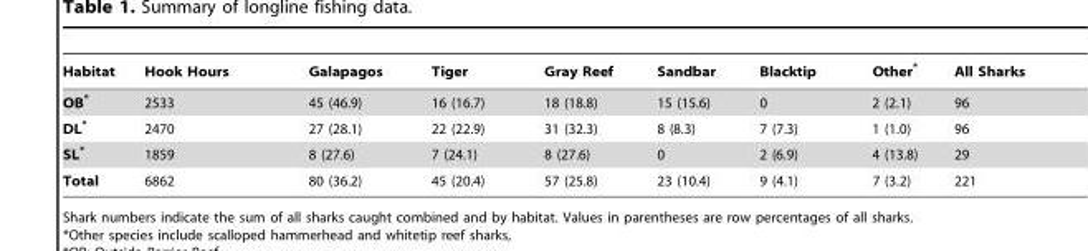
<table><thead><tr><td>Habitat</td><td>Hook Hours</td><td>Galapagos</td><td>Tiger</td><td>Gray Reef</td><td>Sandbar</td><td>Blacktip</td><td>Other*</td><td>All Sharks</td></tr></thead><tbody><tr><td>OB*</td><td>2533</td><td>45 (46.9)</td><td>16 (16.7)</td><td>18 (18.8)</td><td>15 (15.6)</td><td>0</td><td>2 (2.1)</td><td>96</td></tr><tr><td>DL*</td><td>2470</td><td>27 (28.1)</td><td>22 (22.9)</td><td>31 (32.3)</td><td>8 (8.3)</td><td>7 (7.3)</td><td>1 (1.0)</td><td>96</td></tr><tr><td>SL*</td><td>1859</td><td>8 (27.6)</td><td>7 (24.1)</td><td>8 (27.6)</td><td>0</td><td>2 (6.9)</td><td>4 (13.8)</td><td>29</td></tr><tr><td>Total</td><td>6862</td><td>80 (36.2)</td><td>45 (20.4)</td><td>57 (25.8)</td><td>23 (10.4)</td><td>9 (4.1)</td><td>7 (3.2)</td><td>221</td></tr></tbody></table>